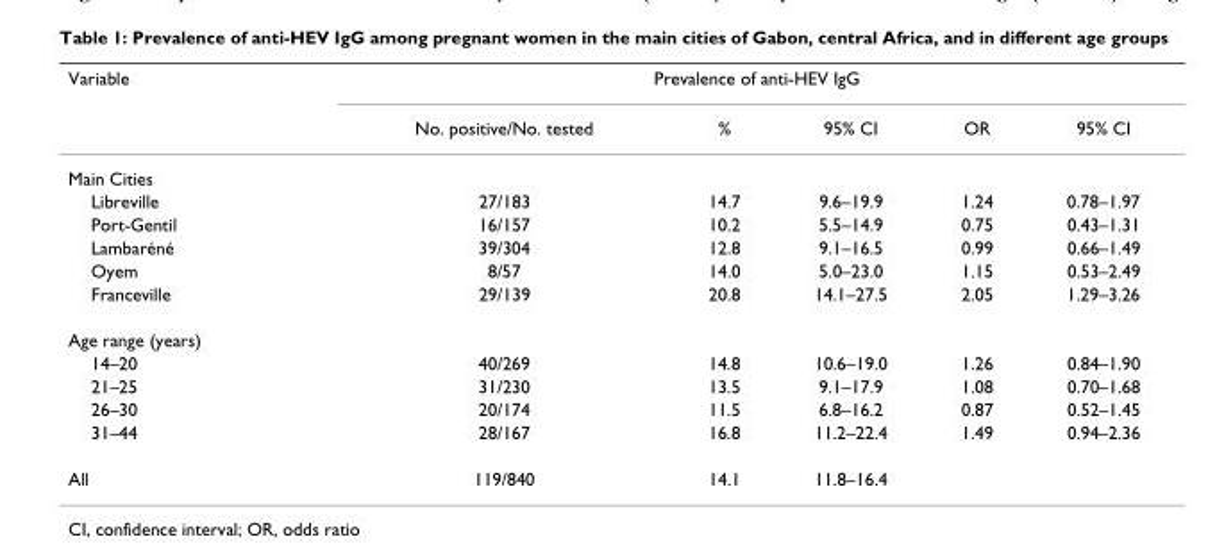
<table><thead><tr><td rowspan="2">Variable</td><td colspan="5">Prevalence of anti-HEV IgG</td></tr><tr><td>No. positive/No. tested</td><td>%</td><td>95% CI</td><td>OR</td><td>95% CI</td></tr></thead><tbody><tr><td colspan="6">Main Cities</td></tr><tr><td>Libreville</td><td>27/183</td><td>14.7</td><td>9.6–19.9</td><td>1.24</td><td>0.78–1.97</td></tr><tr><td>Port-Gentil</td><td>16/157</td><td>10.2</td><td>5.5–14.9</td><td>0.75</td><td>0.43–1.31</td></tr><tr><td>Lambaréné</td><td>39/304</td><td>12.8</td><td>9.1–16.5</td><td>0.99</td><td>0.66–1.49</td></tr><tr><td>Oyem</td><td>8/57</td><td>14.0</td><td>5.0–23.0</td><td>1.15</td><td>0.53–2.49</td></tr><tr><td>Franceville</td><td>29/139</td><td>20.8</td><td>14.1–27.5</td><td>2.05</td><td>1.29–3.26</td></tr><tr><td colspan="6">Age range (years)</td></tr><tr><td>14–20</td><td>40/269</td><td>14.8</td><td>10.6–19.0</td><td>1.26</td><td>0.84–1.90</td></tr><tr><td>21–25</td><td>31/230</td><td>13.5</td><td>9.1–17.9</td><td>1.08</td><td>0.70–1.68</td></tr><tr><td>26–30</td><td>20/174</td><td>11.5</td><td>6.8–16.2</td><td>0.87</td><td>0.52–1.45</td></tr><tr><td>31–44</td><td>28/167</td><td>16.8</td><td>11.2–22.4</td><td>1.49</td><td>0.94–2.36</td></tr><tr><td>All</td><td>119/840</td><td>14.1</td><td>11.8–16.4</td><td></td><td></td></tr></tbody></table>